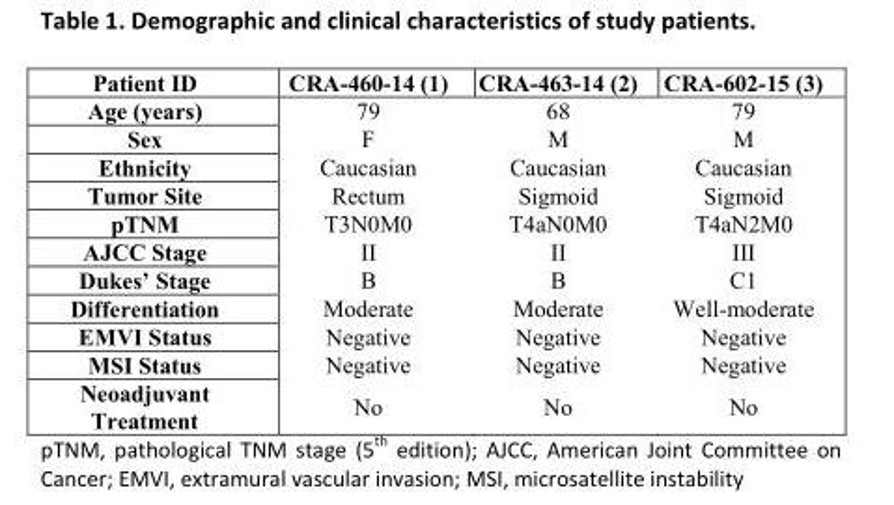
<table><thead><tr><td>Patient ID</td><td>CRA-460-14 (1)</td><td>CRA-463-14 (2)</td><td>CRA-602-15 (3)</td></tr></thead><tbody><tr><td>Age (years)</td><td>79</td><td>68</td><td>79</td></tr><tr><td>Sex</td><td>F</td><td>M</td><td>M</td></tr><tr><td>Ethnicity</td><td>Caucasian</td><td>Caucasian</td><td>Caucasian</td></tr><tr><td>Tumor Site</td><td>Rectum</td><td>Sigmoid</td><td>Sigmoid</td></tr><tr><td>pTNM</td><td>T3N0M0</td><td>T4aN0M0</td><td>T4aN2M0</td></tr><tr><td>AJCC Stage</td><td>II</td><td>II</td><td>III</td></tr><tr><td>Dukes’ Stage</td><td>B</td><td>B</td><td>C1</td></tr><tr><td>Differentiation</td><td>Moderate</td><td>Moderate</td><td>Well-moderate</td></tr><tr><td>EMVI Status</td><td>Negative</td><td>Negative</td><td>Negative</td></tr><tr><td>MSI Status</td><td>Negative</td><td>Negative</td><td>Negative</td></tr><tr><td>Neoadjuvant Treatment</td><td>No</td><td>No</td><td>No</td></tr></tbody></table>